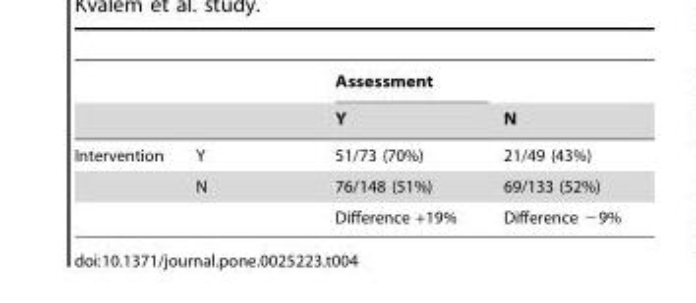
<table><thead><tr><td rowspan="2"></td><td rowspan="2"></td><td rowspan="2">Assessment Y</td><td rowspan="2">N</td></tr><tr></tr></thead><tbody><tr><td rowspan="3">Intervention</td><td>Y</td><td>51/73 (70%)</td><td>21/49 (43%)</td></tr><tr><td>N</td><td>76/148 (51%)</td><td>69/133 (52%)</td></tr><tr><td></td><td>Difference +19%</td><td>Difference −9%</td></tr></tbody></table>